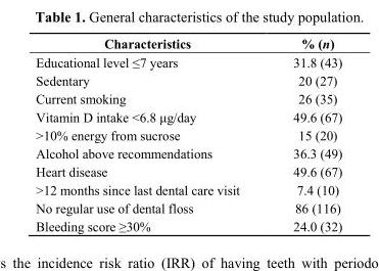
<table><thead><tr><td>Characteristics</td><td>% (n)</td></tr></thead><tbody><tr><td>Educational level ≤7 years</td><td>31.8 (43)</td></tr><tr><td>Sedentary</td><td>20 (27)</td></tr><tr><td>Current smoking</td><td>26 (35)</td></tr><tr><td>Vitamin D intake &lt;6.8 μg/day</td><td>49.6 (67)</td></tr><tr><td>&gt;10% energy from sucrose</td><td>15 (20)</td></tr><tr><td>Alcohol above recommendations</td><td>36.3 (49)</td></tr><tr><td>Heart disease</td><td>49.6 (67)</td></tr><tr><td>&gt;12 months since last dental care visit</td><td>7.4 (10)</td></tr><tr><td>No regular use of dental floss</td><td>86 (116)</td></tr><tr><td>Bleeding score ≥30%</td><td>24.0 (32)</td></tr></tbody></table>